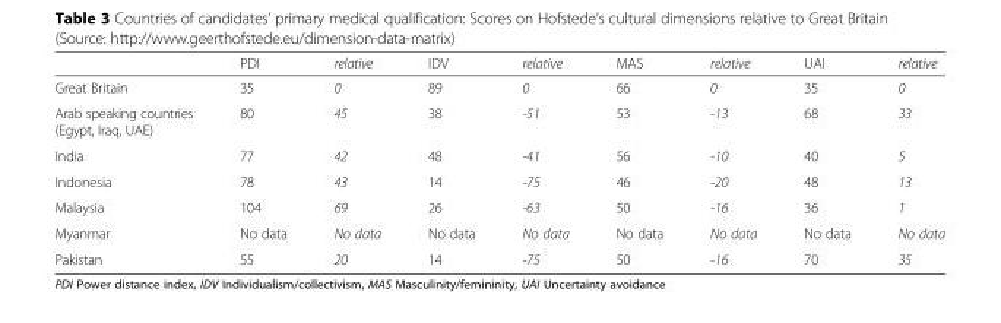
<table><thead><tr><td></td><td>PDI</td><td>relative</td><td>IDV</td><td>relative</td><td>MAS</td><td>relative</td><td>UAI</td><td>relative</td></tr></thead><tbody><tr><td>Great Britain</td><td>35</td><td>0</td><td>89</td><td>0</td><td>66</td><td>0</td><td>35</td><td>0</td></tr><tr><td>Arab speaking countries (Egypt, Iraq, UAE)</td><td>80</td><td>45</td><td>38</td><td>-51</td><td>53</td><td>-13</td><td>68</td><td>33</td></tr><tr><td>India</td><td>77</td><td>42</td><td>48</td><td>-41</td><td>56</td><td>-10</td><td>40</td><td>5</td></tr><tr><td>Indonesia</td><td>78</td><td>43</td><td>14</td><td>-75</td><td>46</td><td>-20</td><td>48</td><td>13</td></tr><tr><td>Malaysia</td><td>104</td><td>69</td><td>26</td><td>-63</td><td>50</td><td>-16</td><td>36</td><td>1</td></tr><tr><td>Myanmar</td><td>No data</td><td>No data</td><td>No data</td><td>No data</td><td>No data</td><td>No data</td><td>No data</td><td>No data</td></tr><tr><td>Pakistan</td><td>55</td><td>20</td><td>14</td><td>-75</td><td>50</td><td>-16</td><td>70</td><td>35</td></tr></tbody></table>